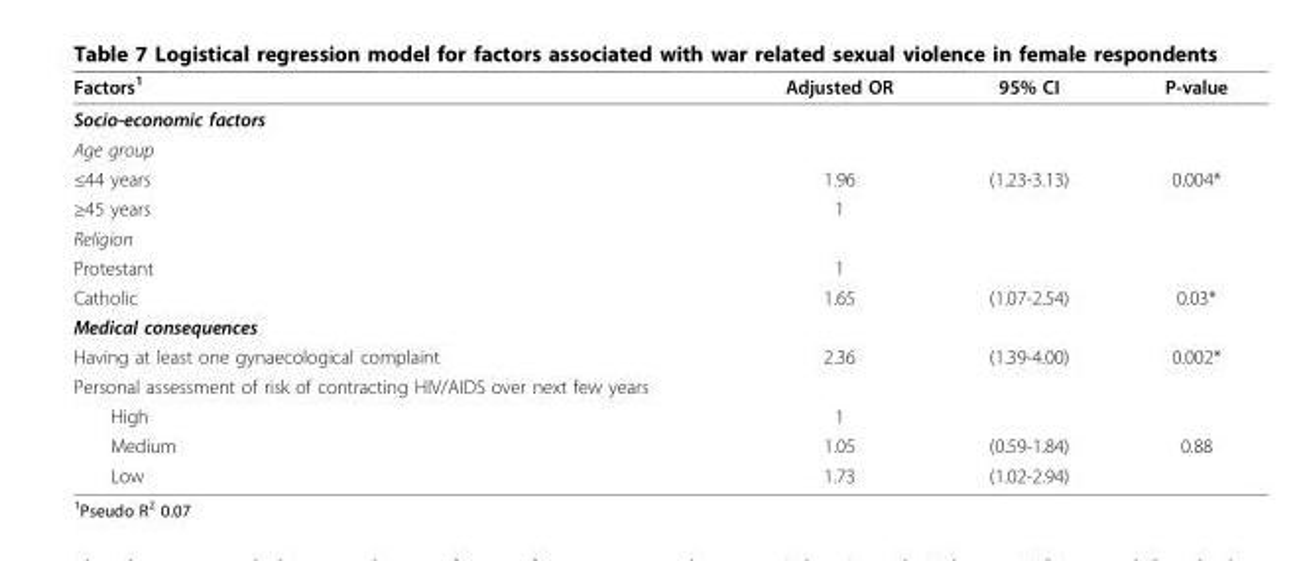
<table><thead><tr><td>Factors<sup>1</sup></td><td>Adjusted OR</td><td>95% CI</td><td>P-value</td></tr></thead><tbody><tr><td colspan="4">Socio-economic factors</td></tr><tr><td colspan="4">Age group</td></tr><tr><td>≤44 years</td><td>1.96</td><td>(1.23-3.13)</td><td>0.004*</td></tr><tr><td>≥45 years</td><td>1</td><td></td><td></td></tr><tr><td colspan="4">Religion</td></tr><tr><td>Protestant</td><td>1</td><td></td><td></td></tr><tr><td>Catholic</td><td>1.65</td><td>(1.07-2.54)</td><td>0.03*</td></tr><tr><td colspan="4">Medical consequences</td></tr><tr><td>Having at least one gynaecological complaint</td><td>2.36</td><td>(1.39-4.00)</td><td>0.002*</td></tr><tr><td colspan="4">Personal assessment of risk of contracting HIV/AIDS over next few years</td></tr><tr><td>High</td><td>1</td><td></td><td></td></tr><tr><td>Medium</td><td>1.05</td><td>(0.59-1.84)</td><td>0.88</td></tr><tr><td>Low</td><td>1.73</td><td>(1.02-2.94)</td><td></td></tr></tbody></table>